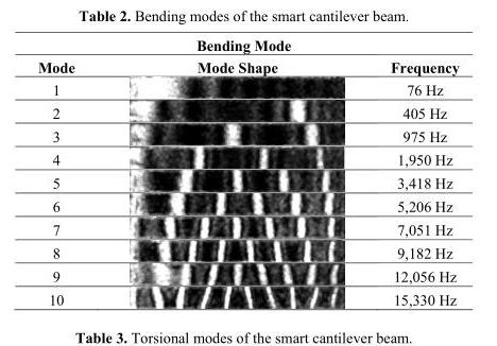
<table><thead><tr><td colspan="3">Bending Mode</td></tr><tr><td>Mode</td><td>Mode Shape</td><td>Frequency</td></tr></thead><tbody><tr><td>1</td><td></td><td>76 Hz</td></tr><tr><td>2</td><td></td><td>405 Hz</td></tr><tr><td>3</td><td></td><td>975 Hz</td></tr><tr><td>4</td><td></td><td>1,950 Hz</td></tr><tr><td>5</td><td></td><td>3,418 Hz</td></tr><tr><td>6</td><td></td><td>5,206 Hz</td></tr><tr><td>7</td><td></td><td>7,051 Hz</td></tr><tr><td>8</td><td></td><td>9,182 Hz</td></tr><tr><td>9</td><td></td><td>12,056 Hz</td></tr><tr><td>10</td><td></td><td>15,330 Hz</td></tr></tbody></table>